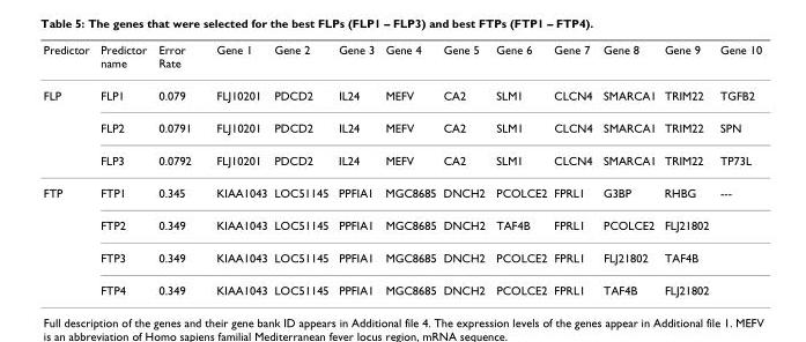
<table><thead><tr><td>Predictor</td><td>Predictor name</td><td>Error Rate</td><td>Gene 1</td><td>Gene 2</td><td>Gene 3</td><td>Gene 4</td><td>Gene 5</td><td>Gene 6</td><td>Gene 7</td><td>Gene 8</td><td>Gene 9</td><td>Gene 10</td></tr></thead><tbody><tr><td rowspan="3">FLP</td><td>FLP1</td><td>0.079</td><td>FLJ10201</td><td>PDCD2</td><td>IL24</td><td>MEFV</td><td>CA2</td><td>SLM1</td><td>CLCN4</td><td>SMARCA1</td><td>TRIM22</td><td>TGFB2</td></tr><tr><td>FLP2</td><td>0.0791</td><td>FLJ10201</td><td>PDCD2</td><td>IL24</td><td>MEFV</td><td>CA2</td><td>SLM1</td><td>CLCN4</td><td>SMARCA1</td><td>TRIM22</td><td>SPN</td></tr><tr><td>FLP3</td><td>0.0792</td><td>FLJ10201</td><td>PDCD2</td><td>IL24</td><td>MEFV</td><td>CA2</td><td>SLM1</td><td>CLCN4</td><td>SMARCA1</td><td>TRIM22</td><td>TP73L</td></tr><tr><td rowspan="4">FTP</td><td>FTP1</td><td>0.345</td><td>KIAA1043</td><td>LOC51145</td><td>PPFIA1</td><td>MGC8685</td><td>DNCH2</td><td>PCOLCE2</td><td>FPRL1</td><td>G3BP</td><td>RHBG</td><td>---</td></tr><tr><td>FTP2</td><td>0.349</td><td>KIAA1043</td><td>LOC51145</td><td>PPFIA1</td><td>MGC8685</td><td>DNCH2</td><td>TAF4B</td><td>FPRL1</td><td>PCOLCE2</td><td>FLJ21802</td><td></td></tr><tr><td>FTP3</td><td>0.349</td><td>KIAA1043</td><td>LOC51145</td><td>PPFIA1</td><td>MGC8685</td><td>DNCH2</td><td>PCOLCE2</td><td>FPRL1</td><td>FLJ21802</td><td>TAF4B</td><td></td></tr><tr><td>FTP4</td><td>0.349</td><td>KIAA1043</td><td>LOC51145</td><td>PPFIA1</td><td>MGC8685</td><td>DNCH2</td><td>PCOLCE2</td><td>FPRL1</td><td>TAF4B</td><td>FLJ21802</td><td></td></tr></tbody></table>